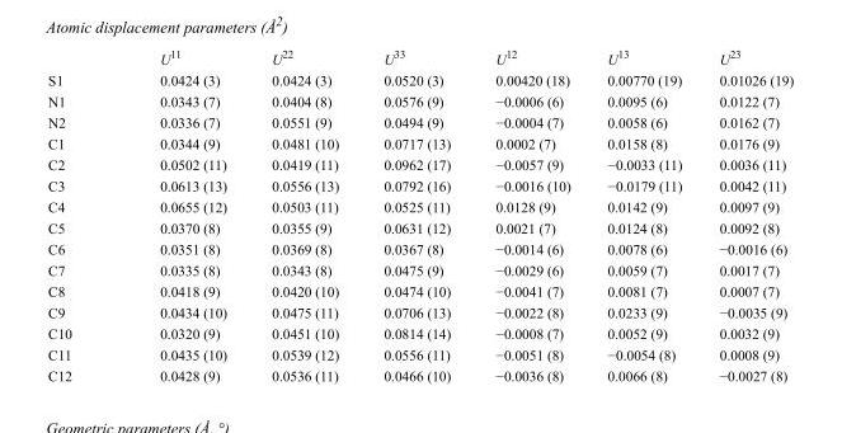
<table><thead><tr><td></td><td>U<sup>11</sup></td><td>U<sup>22</sup></td><td>U<sup>33</sup></td><td>U<sup>12</sup></td><td>U<sup>13</sup></td><td>U<sup>23</sup></td></tr></thead><tbody><tr><td>S1</td><td>0.0424 (3)</td><td>0.0424 (3)</td><td>0.0520 (3)</td><td>0.00420 (18)</td><td>0.00770 (19)</td><td>0.01026 (19)</td></tr><tr><td>N1</td><td>0.0343 (7)</td><td>0.0404 (8)</td><td>0.0576 (9)</td><td>−0.0006 (6)</td><td>0.0095 (6)</td><td>0.0122 (7)</td></tr><tr><td>N2</td><td>0.0336 (7)</td><td>0.0551 (9)</td><td>0.0494 (9)</td><td>−0.0004 (7)</td><td>0.0058 (6)</td><td>0.0162 (7)</td></tr><tr><td>C1</td><td>0.0344 (9)</td><td>0.0481 (10)</td><td>0.0717 (13)</td><td>0.0002 (7)</td><td>0.0158 (8)</td><td>0.0176 (9)</td></tr><tr><td>C2</td><td>0.0502 (11)</td><td>0.0419 (11)</td><td>0.0962 (17)</td><td>−0.0057 (9)</td><td>−0.0033 (11)</td><td>0.0036 (11)</td></tr><tr><td>C3</td><td>0.0613 (13)</td><td>0.0556 (13)</td><td>0.0792 (16)</td><td>−0.0016 (10)</td><td>−0.0179 (11)</td><td>0.0042 (11)</td></tr><tr><td>C4</td><td>0.0655 (12)</td><td>0.0503 (11)</td><td>0.0525 (11)</td><td>0.0128 (9)</td><td>0.0142 (9)</td><td>0.0097 (9)</td></tr><tr><td>C5</td><td>0.0370 (8)</td><td>0.0355 (9)</td><td>0.0631 (12)</td><td>0.0021 (7)</td><td>0.0124 (8)</td><td>0.0092 (8)</td></tr><tr><td>C6</td><td>0.0351 (8)</td><td>0.0369 (8)</td><td>0.0367 (8)</td><td>−0.0014 (6)</td><td>0.0078 (6)</td><td>−0.0016 (6)</td></tr><tr><td>C7</td><td>0.0335 (8)</td><td>0.0343 (8)</td><td>0.0475 (9)</td><td>−0.0029 (6)</td><td>0.0059 (7)</td><td>0.0017 (7)</td></tr><tr><td>C8</td><td>0.0418 (9)</td><td>0.0420 (10)</td><td>0.0474 (10)</td><td>−0.0041 (7)</td><td>0.0081 (7)</td><td>0.0007 (7)</td></tr><tr><td>C9</td><td>0.0434 (10)</td><td>0.0475 (11)</td><td>0.0706 (13)</td><td>−0.0022 (8)</td><td>0.0233 (9)</td><td>−0.0035 (9)</td></tr><tr><td>C10</td><td>0.0320 (9)</td><td>0.0451 (10)</td><td>0.0814 (14)</td><td>−0.0008 (7)</td><td>0.0052 (9)</td><td>0.0032 (9)</td></tr><tr><td>C11</td><td>0.0435 (10)</td><td>0.0539 (12)</td><td>0.0556 (11)</td><td>−0.0051 (8)</td><td>−0.0054 (8)</td><td>0.0008 (9)</td></tr><tr><td>C12</td><td>0.0428 (9)</td><td>0.0536 (11)</td><td>0.0466 (10)</td><td>−0.0036 (8)</td><td>0.0066 (8)</td><td>−0.0027 (8)</td></tr></tbody></table>